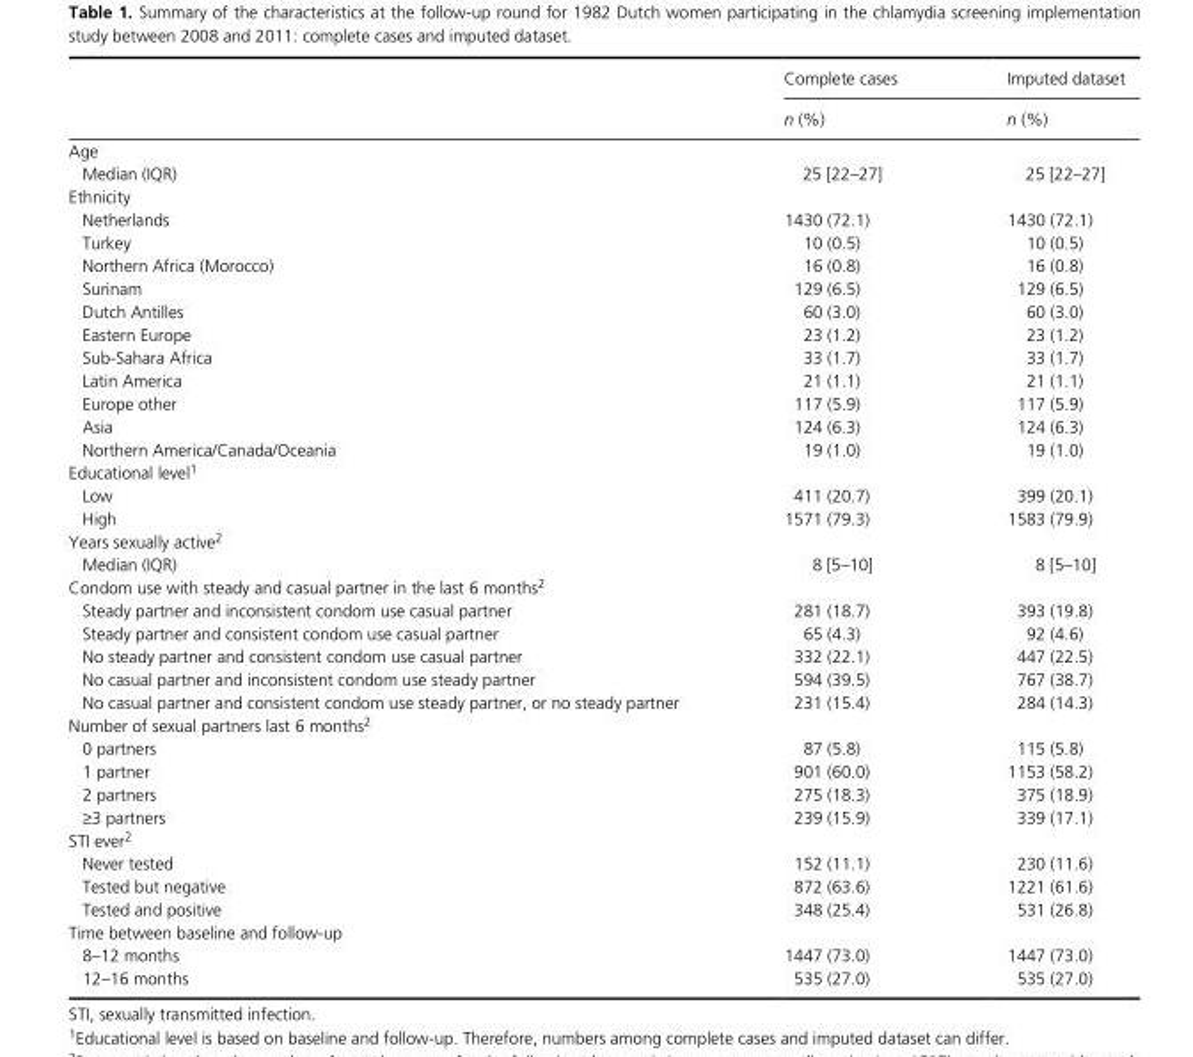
<table><thead><tr><td rowspan="2"></td><td rowspan="2">Complete cases n (%)</td><td rowspan="2">Imputed dataset n (%)</td></tr><tr></tr></thead><tbody><tr><td colspan="3">Age</td></tr><tr><td>Median (IQR)</td><td>25 [22–27]</td><td>25 [22–27]</td></tr><tr><td colspan="3">Ethnicity</td></tr><tr><td>Netherlands</td><td>1430 (72.1)</td><td>1430 (72.1)</td></tr><tr><td>Turkey</td><td>10 (0.5)</td><td>10 (0.5)</td></tr><tr><td>Northern Africa (Morocco)</td><td>16 (0.8)</td><td>16 (0.8)</td></tr><tr><td>Surinam</td><td>129 (6.5)</td><td>129 (6.5)</td></tr><tr><td>Dutch Antilles</td><td>60 (3.0)</td><td>60 (3.0)</td></tr><tr><td>Eastern Europe</td><td>23 (1.2)</td><td>23 (1.2)</td></tr><tr><td>Sub- Sahara Africa</td><td>33 (1.7)</td><td>33 (1.7)</td></tr><tr><td>Latin America</td><td>21 (1.1)</td><td>21 (1.1)</td></tr><tr><td>Europe other</td><td>117 (5.9)</td><td>117 (5.9)</td></tr><tr><td>Asia</td><td>124 (6.3)</td><td>124 (6.3)</td></tr><tr><td>Northern America/Canada/Oceania</td><td>19 (1.0)</td><td>19 (1.0)</td></tr><tr><td colspan="3">Educational level<sup>1</sup></td></tr><tr><td>Low</td><td>411 (20.7)</td><td>399 (20.1)</td></tr><tr><td>High</td><td>1571 (79.3)</td><td>1583 (79.9)</td></tr><tr><td colspan="3">Years sexually active<sup>2</sup></td></tr><tr><td>Median (IQR)</td><td>8 [5–10]</td><td>8 [5–10]</td></tr><tr><td colspan="3">Condom use with steady and casual partner in the last 6 months<sup>2</sup></td></tr><tr><td>Steady partner and inconsistent condom use casual partner</td><td>281 (18.7)</td><td>393 (19.8)</td></tr><tr><td>Steady partner and consistent condom use casual partner</td><td>65 (4.3)</td><td>92 (4.6)</td></tr><tr><td>No steady partner and consistent condom use casual partner</td><td>332 (22.1)</td><td>447 (22.5)</td></tr><tr><td>No casual partner and inconsistent condom use steady partner</td><td>594 (39.5)</td><td>767 (38.7)</td></tr><tr><td>No casual partner and consistent condom use steady partner, or no steady partner</td><td>231 (15.4)</td><td>284 (14.3)</td></tr><tr><td colspan="3">Number of sexual partners last 6 months<sup>2</sup></td></tr><tr><td>0 partners</td><td>87 (5.8)</td><td>115 (5.8)</td></tr><tr><td>1 partner</td><td>901 (60.0)</td><td>1153 (58.2)</td></tr><tr><td>2 partners</td><td>275 (18.3)</td><td>375 (18.9)</td></tr><tr><td>≥3 partners</td><td>239 (15.9)</td><td>339 (17.1)</td></tr><tr><td colspan="3">STI ever<sup>2</sup></td></tr><tr><td>Never tested</td><td>152 (11.1)</td><td>230 (11.6)</td></tr><tr><td>Tested but negative</td><td>872 (63.6)</td><td>1221 (61.6)</td></tr><tr><td>Tested and positive</td><td>348 (25.4)</td><td>531 (26.8)</td></tr><tr><td colspan="3">Time between baseline and follow- up</td></tr><tr><td>8–12 months</td><td>1447 (73.0)</td><td>1447 (73.0)</td></tr><tr><td>12–16 months</td><td>535 (27.0)</td><td>535 (27.0)</td></tr></tbody></table>